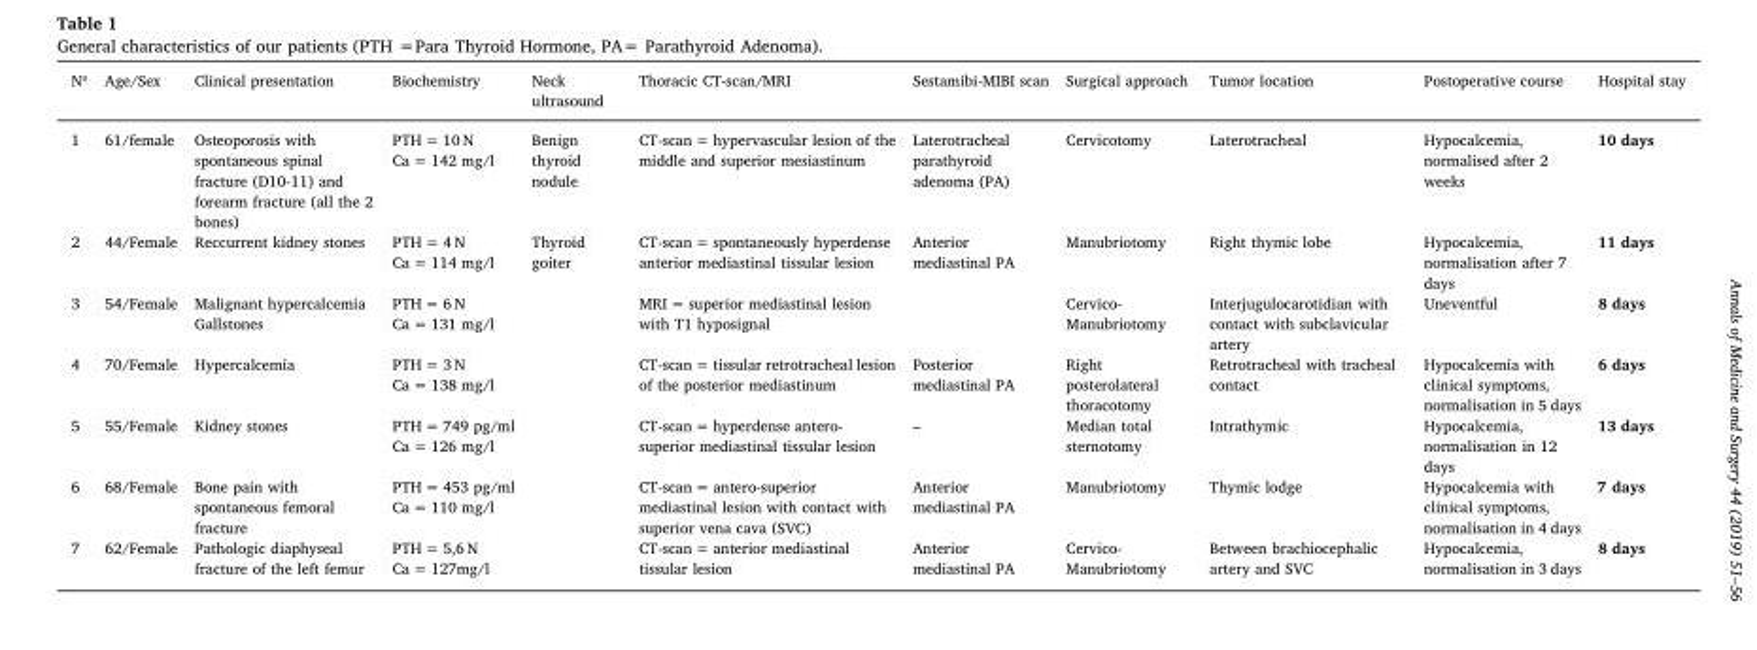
<table><thead><tr><td>Nº</td><td>Age/Sex</td><td>Clinical presentation</td><td>Biochemistry</td><td>Neck ultrasound</td><td>Thoracic CT-scan/MRI</td><td>Sestamibi-MIBI scan</td><td>Surgical approach</td><td>Tumor location</td><td>Postoperative course</td><td>Hospital stay</td></tr></thead><tbody><tr><td>1</td><td>61/female</td><td>Osteoporosis with spontaneous spinal fracture (D10-11) and forearm fracture (all the 2 bones)</td><td>PTH = 10 N Ca = 142 mg/l</td><td>Benign thyroid nodule</td><td>CT-scan = hypervascular lesion of the middle and superior mesiastinum</td><td>Laterotracheal parathyroid adenoma (PA)</td><td>Cervicotomy</td><td>Laterotracheal</td><td>Hypocalcemia, normalised after 2 weeks</td><td>10 days</td></tr><tr><td>2</td><td>44/Female</td><td>Reccurrent kidney stones</td><td>PTH = 4 N Ca = 114 mg/l</td><td>Thyroid goiter</td><td>CT-scan = spontaneously hyperdense anterior mediastinal tissular lesion</td><td>Anterior mediastinal PA</td><td>Manubriotomy</td><td>Right thymic lobe</td><td>Hypocalcemia, normalisation after 7 days</td><td>11 days</td></tr><tr><td>3</td><td>54/Female</td><td>Malignant hypercalcemia Gallstones</td><td>PTH = 6 N Ca = 131 mg/l</td><td></td><td>MRI = superior mediastinal lesion with T1 hyposignal</td><td></td><td>Cervico- Manubriotomy</td><td>Interjugulocarotidian with contact with subclavicular artery</td><td>Uneventful</td><td>8 days</td></tr><tr><td>4</td><td>70/Female</td><td>Hypercalcemia</td><td>PTH = 3 N Ca = 138 mg/l</td><td></td><td>CT-scan = tissular retrotracheal lesion of the posterior mediastinum</td><td>Posterior mediastinal PA</td><td>Right posterolateral thoracotomy</td><td>Retrotracheal with tracheal contact</td><td>Hypocalcemia with clinical symptoms, normalisation in 5 days</td><td>6 days</td></tr><tr><td>5</td><td>55/Female</td><td>Kidney stones</td><td>PTH = 749 pg/ml Ca = 126 mg/l</td><td></td><td>CT-scan = hyperdense antero- superior mediastinal tissular lesion</td><td>–</td><td>Median total sternotomy</td><td>Intrathymic</td><td>Hypocalcemia, normalisation in 12 days</td><td>13 days</td></tr><tr><td>6</td><td>68/Female</td><td>Bone pain with spontaneous femoral fracture</td><td>PTH = 453 pg/ml Ca = 110 mg/l</td><td></td><td>CT-scan = antero-superior mediastinal lesion with contact with superior vena cava (SVC)</td><td>Anterior mediastinal PA</td><td>Manubriotomy</td><td>Thymic lodge</td><td>Hypocalcemia with clinical symptoms, normalisation in 4 days</td><td>7 days</td></tr><tr><td>7</td><td>62/Female</td><td>Pathologic diaphyseal fracture of the left femur</td><td>PTH = 5,6 N Ca = 127mg/l</td><td></td><td>CT-scan = anterior mediastinal tissular lesion</td><td>Anterior mediastinal PA</td><td>Cervico- Manubriotomy</td><td>Between brachiocephalic artery and SVC</td><td>Hypocalcemia, normalisation in 3 days</td><td>8 days</td></tr></tbody></table>